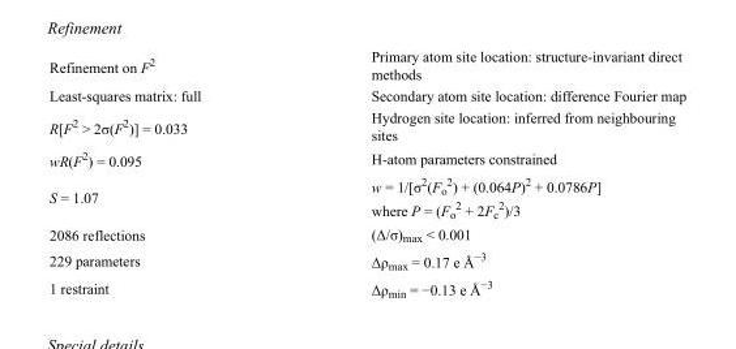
<table><tbody><tr><td>Refinement on F<sup>2</sup></td><td>Primary atom site location: structure-invariant direct methods</td></tr><tr><td>Least-squares matrix: full</td><td>Secondary atom site location: difference Fourier map</td></tr><tr><td>R[F<sup>2</sup> &gt; 2σ(F<sup>2</sup>)] = 0.033</td><td>Hydrogen site location: inferred from neighbouring sites</td></tr><tr><td>wR(F<sup>2</sup>) = 0.095</td><td>H-atom parameters constrained</td></tr><tr><td>S = 1.07</td><td>w = 1/[σ<sup>2</sup>(F<sub>o</sub> <sup>2</sup>) + (0.064P)<sup>2</sup> + 0.0786P] where P = (F<sub>o</sub> <sup>2</sup> + 2F<sub>c</sub> <sup>2</sup>)/3</td></tr><tr><td>2086 reflections</td><td>(Δ/σ)<sub>max</sub> &lt; 0.001</td></tr><tr><td>229 parameters</td><td>Δρ<sub>max</sub> = 0.17 e Å<sup>−3</sup></td></tr><tr><td>1 restraint</td><td>Δρ<sub>min</sub> = −0.13 e Å<sup>−3</sup></td></tr></tbody></table>